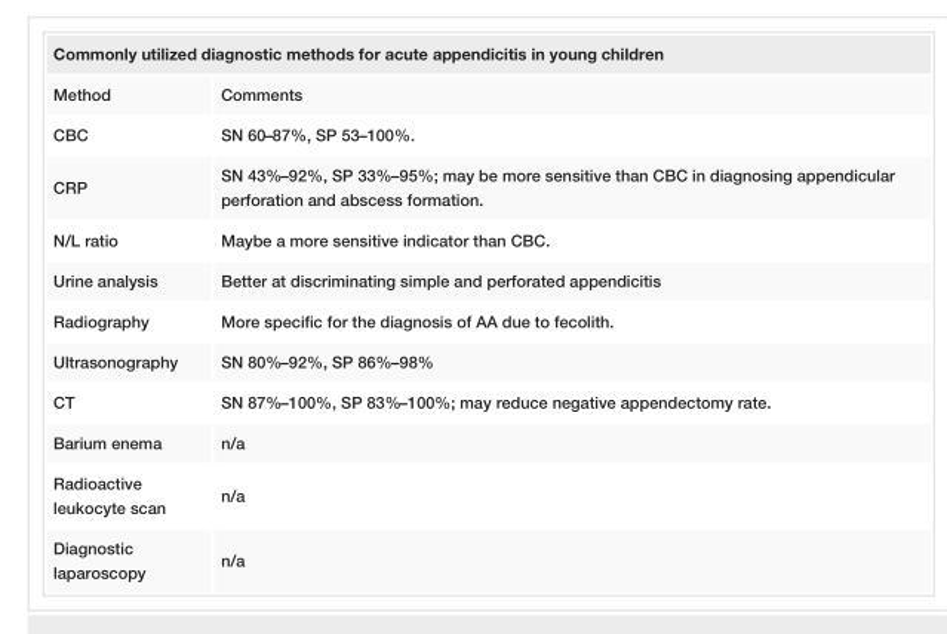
<table><tbody><tr><td colspan="2">Commonly utilized diagnostic methods for acute appendicitis in young children</td></tr><tr><td>Method</td><td>Comments</td></tr><tr><td>CBC</td><td>SN 60–87%, SP 53–100%.</td></tr><tr><td>CRP</td><td>SN 43%–92%, SP 33%–95%; may be more sensitive than CBC in diagnosing appendicular perforation and abscess formation.</td></tr><tr><td>N/L ratio</td><td>Maybe a more sensitive indicator than CBC.</td></tr><tr><td>Urine analysis</td><td>Better at discriminating simple and perforated appendicitis</td></tr><tr><td>Radiography</td><td>More specific for the diagnosis of AA due to fecolith.</td></tr><tr><td>Ultrasonography</td><td>SN 80%–92%, SP 86%–98%</td></tr><tr><td>CT</td><td>SN 87%–100%, SP 83%–100%; may reduce negative appendectomy rate.</td></tr><tr><td>Barium enema</td><td>n/a</td></tr><tr><td>Radioactive leukocyte scan</td><td>n/a</td></tr><tr><td>Diagnostic laparoscopy</td><td>n/a</td></tr></tbody></table>